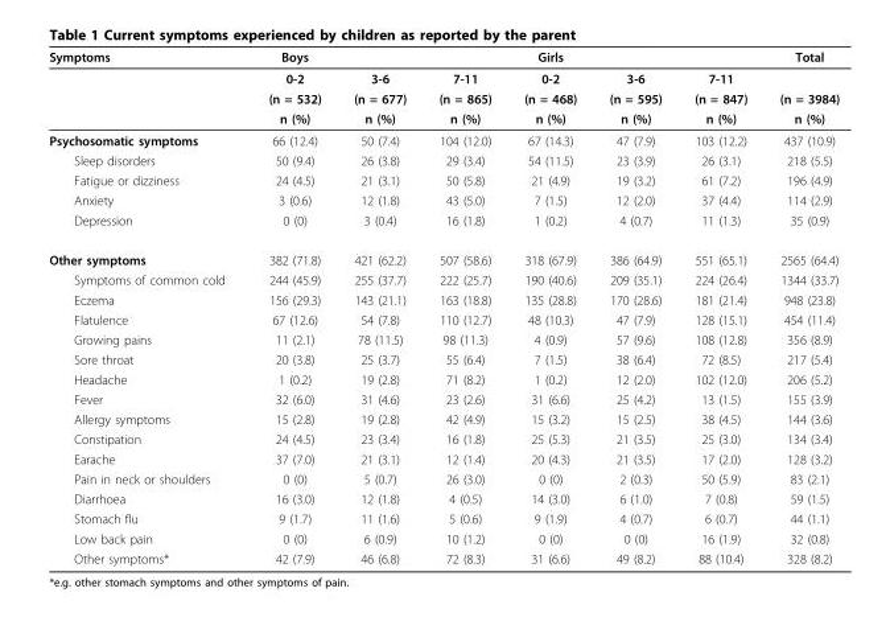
<table><thead><tr><td>Symptoms</td><td>Boys</td><td></td><td></td><td>Girls</td><td></td><td></td><td>Total</td></tr></thead><tbody><tr><td></td><td>0-2</td><td>3-6</td><td>7-11</td><td>0-2</td><td>3-6</td><td>7-11</td><td></td></tr><tr><td></td><td>(n = 532)</td><td>(n = 677)</td><td>(n = 865)</td><td>(n = 468)</td><td>(n = 595)</td><td>(n = 847)</td><td>(n = 3984)</td></tr><tr><td></td><td>n (%)</td><td>n (%)</td><td>n (%)</td><td>n (%)</td><td>n (%)</td><td>n (%)</td><td>n (%)</td></tr><tr><td>Psychosomatic symptoms</td><td>66 (12.4)</td><td>50 (7.4)</td><td>104 (12.0)</td><td>67 (14.3)</td><td>47 (7.9)</td><td>103 (12.2)</td><td>437 (10.9)</td></tr><tr><td>Sleep disorders</td><td>50 (9.4)</td><td>26 (3.8)</td><td>29 (3.4)</td><td>54 (11.5)</td><td>23 (3.9)</td><td>26 (3.1)</td><td>218 (5.5)</td></tr><tr><td>Fatigue or dizziness</td><td>24 (4.5)</td><td>21 (3.1)</td><td>50 (5.8)</td><td>21 (4.9)</td><td>19 (3.2)</td><td>61 (7.2)</td><td>196 (4.9)</td></tr><tr><td>Anxiety</td><td>3 (0.6)</td><td>12 (1.8)</td><td>43 (5.0)</td><td>7 (1.5)</td><td>12 (2.0)</td><td>37 (4.4)</td><td>114 (2.9)</td></tr><tr><td>Depression</td><td>0 (0)</td><td>3 (0.4)</td><td>16 (1.8)</td><td>1 (0.2)</td><td>4 (0.7)</td><td>11 (1.3)</td><td>35 (0.9)</td></tr><tr><td>Other symptoms</td><td>382 (71.8)</td><td>421 (62.2)</td><td>507 (58.6)</td><td>318 (67.9)</td><td>386 (64.9)</td><td>551 (65.1)</td><td>2565 (64.4)</td></tr><tr><td>Symptoms of common cold</td><td>244 (45.9)</td><td>255 (37.7)</td><td>222 (25.7)</td><td>190 (40.6)</td><td>209 (35.1)</td><td>224 (26.4)</td><td>1344 (33.7)</td></tr><tr><td>Eczema</td><td>156 (29.3)</td><td>143 (21.1)</td><td>163 (18.8)</td><td>135 (28.8)</td><td>170 (28.6)</td><td>181 (21.4)</td><td>948 (23.8)</td></tr><tr><td>Flatulence</td><td>67 (12.6)</td><td>54 (7.8)</td><td>110 (12.7)</td><td>48 (10.3)</td><td>47 (7.9)</td><td>128 (15.1)</td><td>454 (11.4)</td></tr><tr><td>Growing pains</td><td>11 (2.1)</td><td>78 (11.5)</td><td>98 (11.3)</td><td>4 (0.9)</td><td>57 (9.6)</td><td>108 (12.8)</td><td>356 (8.9)</td></tr><tr><td>Sore throat</td><td>20 (3.8)</td><td>25 (3.7)</td><td>55 (6.4)</td><td>7 (1.5)</td><td>38 (6.4)</td><td>72 (8.5)</td><td>217 (5.4)</td></tr><tr><td>Headache</td><td>1 (0.2)</td><td>19 (2.8)</td><td>71 (8.2)</td><td>1 (0.2)</td><td>12 (2.0)</td><td>102 (12.0)</td><td>206 (5.2)</td></tr><tr><td>Fever</td><td>32 (6.0)</td><td>31 (4.6)</td><td>23 (2.6)</td><td>31 (6.6)</td><td>25 (4.2)</td><td>13 (1.5)</td><td>155 (3.9)</td></tr><tr><td>Allergy symptoms</td><td>15 (2.8)</td><td>19 (2.8)</td><td>42 (4.9)</td><td>15 (3.2)</td><td>15 (2.5)</td><td>38 (4.5)</td><td>144 (3.6)</td></tr><tr><td>Constipation</td><td>24 (4.5)</td><td>23 (3.4)</td><td>16 (1.8)</td><td>25 (5.3)</td><td>21 (3.5)</td><td>25 (3.0)</td><td>134 (3.4)</td></tr><tr><td>Earache</td><td>37 (7.0)</td><td>21 (3.1)</td><td>12 (1.4)</td><td>20 (4.3)</td><td>21 (3.5)</td><td>17 (2.0)</td><td>128 (3.2)</td></tr><tr><td>Pain in neck or shoulders</td><td>0 (0)</td><td>5 (0.7)</td><td>26 (3.0)</td><td>0 (0)</td><td>2 (0.3)</td><td>50 (5.9)</td><td>83 (2.1)</td></tr><tr><td>Diarrhoea</td><td>16 (3.0)</td><td>12 (1.8)</td><td>4 (0.5)</td><td>14 (3.0)</td><td>6 (1.0)</td><td>7 (0.8)</td><td>59 (1.5)</td></tr><tr><td>Stomach flu</td><td>9 (1.7)</td><td>11 (1.6)</td><td>5 (0.6)</td><td>9 (1.9)</td><td>4 (0.7)</td><td>6 (0.7)</td><td>44 (1.1)</td></tr><tr><td>Low back pain</td><td>0 (0)</td><td>6 (0.9)</td><td>10 (1.2)</td><td>0 (0)</td><td>0 (0)</td><td>16 (1.9)</td><td>32 (0.8)</td></tr><tr><td>Other symptoms*</td><td>42 (7.9)</td><td>46 (6.8)</td><td>72 (8.3)</td><td>31 (6.6)</td><td>49 (8.2)</td><td>88 (10.4)</td><td>328 (8.2)</td></tr></tbody></table>